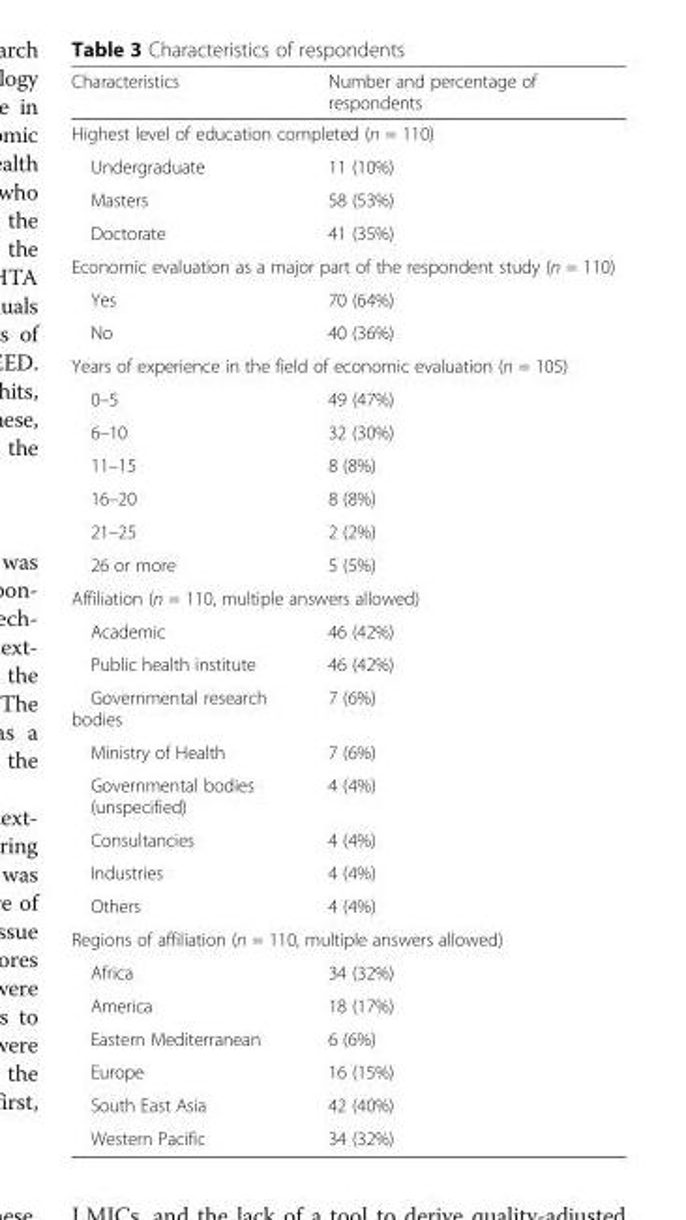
<table><thead><tr><td>Characteristics</td><td>Number and percentage of respondents</td></tr></thead><tbody><tr><td colspan="2">Highest level of education completed (n = 110)</td></tr><tr><td>Undergraduate</td><td>11 (10%)</td></tr><tr><td>Masters</td><td>58 (53%)</td></tr><tr><td>Doctorate</td><td>41 (35%)</td></tr><tr><td colspan="2">Economic evaluation as a major part of the respondent study (n = 110)</td></tr><tr><td>Yes</td><td>70 (64%)</td></tr><tr><td>No</td><td>40 (36%)</td></tr><tr><td colspan="2">Years of experience in the field of economic evaluation (n = 105)</td></tr><tr><td>0–5</td><td>49 (47%)</td></tr><tr><td>6–10</td><td>32 (30%)</td></tr><tr><td>11–15</td><td>8 (8%)</td></tr><tr><td>16–20</td><td>8 (8%)</td></tr><tr><td>21–25</td><td>2 (2%)</td></tr><tr><td>26 or more</td><td>5 (5%)</td></tr><tr><td colspan="2">Affiliation (n = 110, multiple answers allowed)</td></tr><tr><td>Academic</td><td>46 (42%)</td></tr><tr><td>Public health institute</td><td>46 (42%)</td></tr><tr><td>Governmental research bodies</td><td>7 (6%)</td></tr><tr><td>Ministry of Health</td><td>7 (6%)</td></tr><tr><td>Governmental bodies (unspecified)</td><td>4 (4%)</td></tr><tr><td>Consultancies</td><td>4 (4%)</td></tr><tr><td>Industries</td><td>4 (4%)</td></tr><tr><td>Others</td><td>4 (4%)</td></tr><tr><td colspan="2">Regions of affiliation (n = 110, multiple answers allowed)</td></tr><tr><td>Africa</td><td>34 (32%)</td></tr><tr><td>America</td><td>18 (17%)</td></tr><tr><td>Eastern Mediterranean</td><td>6 (6%)</td></tr><tr><td>Europe</td><td>16 (15%)</td></tr><tr><td>South East Asia</td><td>42 (40%)</td></tr><tr><td>Western Pacific</td><td>34 (32%)</td></tr></tbody></table>